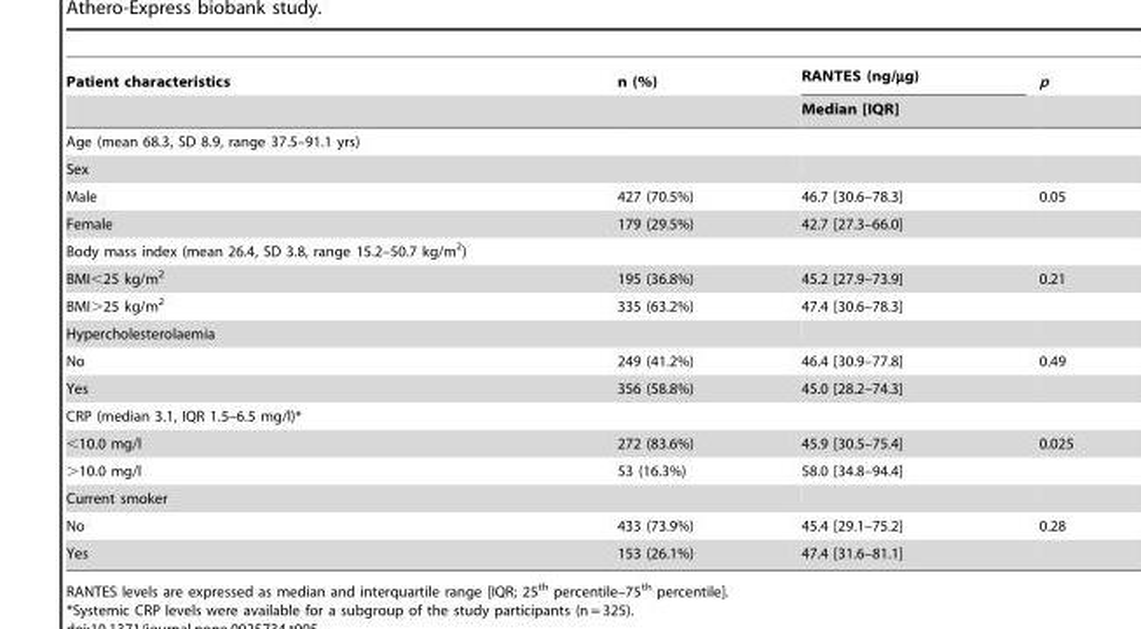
<table><thead><tr><td rowspan="2">Patient characteristics</td><td rowspan="2">n (%)</td><td rowspan="2">RANTES (ng/µg) Median [IQR]</td><td rowspan="2">p</td></tr><tr></tr></thead><tbody><tr><td colspan="4">Age (mean 68.3, SD 8.9, range 37.5–91.1 yrs)</td></tr><tr><td colspan="4">Sex</td></tr><tr><td>Male</td><td>427 (70.5%)</td><td>46.7 [30.6–78.3]</td><td>0.05</td></tr><tr><td>Female</td><td>179 (29.5%)</td><td>42.7 [27.3–66.0]</td><td></td></tr><tr><td colspan="4">Body mass index (mean 26.4, SD 3.8, range 15.2–50.7 kg/m<sup>2</sup>)</td></tr><tr><td>BMI&lt;25 kg/m<sup>2</sup></td><td>195 (36.8%)</td><td>45.2 [27.9–73.9]</td><td>0.21</td></tr><tr><td>BMI&gt;25 kg/m<sup>2</sup></td><td>335 (63.2%)</td><td>47.4 [30.6–78.3]</td><td></td></tr><tr><td colspan="4">Hypercholesterolaemia</td></tr><tr><td>No</td><td>249 (41.2%)</td><td>46.4 [30.9–77.8]</td><td>0.49</td></tr><tr><td>Yes</td><td>356 (58.8%)</td><td>45.0 [28.2–74.3]</td><td></td></tr><tr><td colspan="4">CRP (median 3.1, IQR 1.5–6.5 mg/l)*</td></tr><tr><td>&lt;10.0 mg/l</td><td>272 (83.6%)</td><td>45.9 [30.5–75.4]</td><td>0.025</td></tr><tr><td>&gt;10.0 mg/l</td><td>53 (16.3%)</td><td>58.0 [34.8–94.4]</td><td></td></tr><tr><td colspan="4">Current smoker</td></tr><tr><td>No</td><td>433 (73.9%)</td><td>45.4 [29.1–75.2]</td><td>0.28</td></tr><tr><td>Yes</td><td>153 (26.1%)</td><td>47.4 [31.6–81.1]</td><td></td></tr></tbody></table>